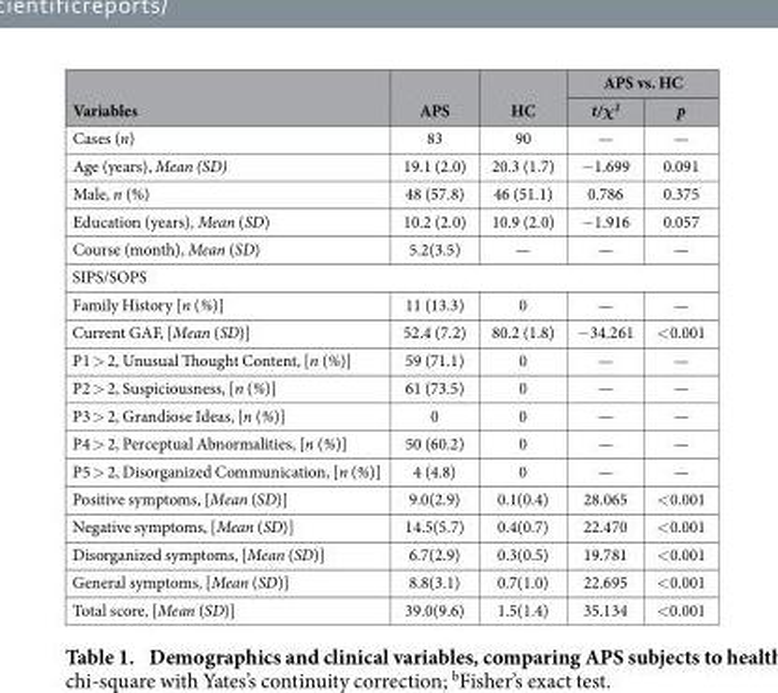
<table><thead><tr><td rowspan="2">Variables</td><td rowspan="2">APS</td><td rowspan="2">HC</td><td colspan="2">APS vs. HC</td></tr><tr><td>t/χ<sup>2</sup></td><td>p</td></tr></thead><tbody><tr><td>Cases (n)</td><td>83</td><td>90</td><td>—</td><td>—</td></tr><tr><td>Age (years), Mean (SD)</td><td>19.1 (2.0)</td><td>20.3 (1.7)</td><td>− 1.699</td><td>0.091</td></tr><tr><td>Male, n (%)</td><td>48 (57.8)</td><td>46 (51.1)</td><td>0.786</td><td>0.375</td></tr><tr><td>Education (years), Mean (SD)</td><td>10.2 (2.0)</td><td>10.9 (2.0)</td><td>− 1.916</td><td>0.057</td></tr><tr><td>Course (month), Mean (SD)</td><td>5.2(3.5)</td><td>—</td><td>—</td><td>—</td></tr><tr><td colspan="5">SIPS/SOPS</td></tr><tr><td>Family History [n (%)]</td><td>11 (13.3)</td><td>0</td><td>—</td><td>—</td></tr><tr><td>Current GAF, [Mean (SD)]</td><td>52.4 (7.2)</td><td>80.2 (1.8)</td><td>− 34.261</td><td>&lt; 0.001</td></tr><tr><td>P1 &gt; 2, Unusual Thought Content, [n (%)]</td><td>59 (71.1)</td><td>0</td><td>—</td><td>—</td></tr><tr><td>P2 &gt; 2, Suspiciousness, [n (%)]</td><td>61 (73.5)</td><td>0</td><td>—</td><td>—</td></tr><tr><td>P3 &gt; 2, Grandiose Ideas, [n (%)]</td><td>0</td><td>0</td><td>—</td><td>—</td></tr><tr><td>P4 &gt; 2, Perceptual Abnormalities, [n (%)]</td><td>50 (60.2)</td><td>0</td><td>—</td><td>—</td></tr><tr><td>P5 &gt; 2, Disorganized Communication, [n (%)]</td><td>4 (4.8)</td><td>0</td><td>—</td><td>—</td></tr><tr><td>Positive symptoms, [Mean (SD)]</td><td>9.0(2.9)</td><td>0.1(0.4)</td><td>28.065</td><td>&lt; 0.001</td></tr><tr><td>Negative symptoms, [Mean (SD)]</td><td>14.5(5.7)</td><td>0.4(0.7)</td><td>22.470</td><td>&lt; 0.001</td></tr><tr><td>Disorganized symptoms, [Mean (SD)]</td><td>6.7(2.9)</td><td>0.3(0.5)</td><td>19.781</td><td>&lt; 0.001</td></tr><tr><td>General symptoms, [Mean (SD)]</td><td>8.8(3.1)</td><td>0.7(1.0)</td><td>22.695</td><td>&lt; 0.001</td></tr><tr><td>Total score, [Mean (SD)]</td><td>39.0(9.6)</td><td>1.5(1.4)</td><td>35.134</td><td>&lt; 0.001</td></tr></tbody></table>